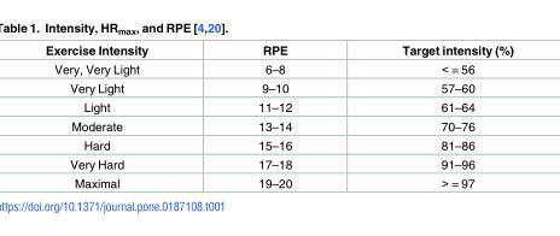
<table><thead><tr><td>Exercise Intensity</td><td>RPE</td><td>Target intensity (%)</td></tr></thead><tbody><tr><td>Very, Very Light</td><td>6–8</td><td>&lt; = 56</td></tr><tr><td>Very Light</td><td>9–10</td><td>57–60</td></tr><tr><td>Light</td><td>11–12</td><td>61–64</td></tr><tr><td>Moderate</td><td>13–14</td><td>70–76</td></tr><tr><td>Hard</td><td>15–16</td><td>81–86</td></tr><tr><td>Very Hard</td><td>17–18</td><td>91–96</td></tr><tr><td>Maximal</td><td>19–20</td><td>&gt; = 97</td></tr></tbody></table>